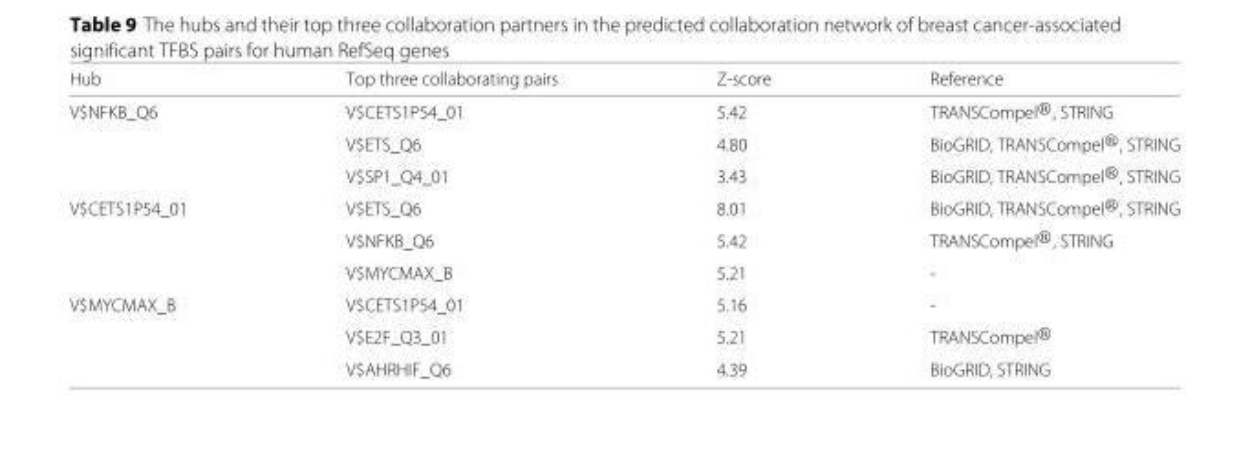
<table><thead><tr><td>Hub</td><td>Top three collaborating pairs</td><td>Z-score</td><td>Reference</td></tr></thead><tbody><tr><td rowspan="3">V$NFKB_Q6</td><td>V$CETS1P54_01</td><td>5.42</td><td>TRANSCompel®, STRING</td></tr><tr><td>V$ETS_Q6</td><td>4.80</td><td>BioGRID, TRANSCompel®, STRING</td></tr><tr><td>V$SP1_Q4_01</td><td>3.43</td><td>BioGRID, TRANSCompel®, STRING</td></tr><tr><td rowspan="3">V$CETS1P54_01</td><td>V$ETS_Q6</td><td>8.01</td><td>BioGRID, TRANSCompel®, STRING</td></tr><tr><td>V$NFKB_Q6</td><td>5.42</td><td>TRANSCompel®, STRING</td></tr><tr><td>V$MYCMAX_B</td><td>5.21</td><td>-</td></tr><tr><td rowspan="3">V$MYCMAX_B</td><td>V$CETS1P54_01</td><td>5.16</td><td>-</td></tr><tr><td>V$E2F_Q3_01</td><td>5.21</td><td>TRANSCompel®</td></tr><tr><td>V$AHRHIF_Q6</td><td>4.39</td><td>BioGRID, STRING</td></tr></tbody></table>